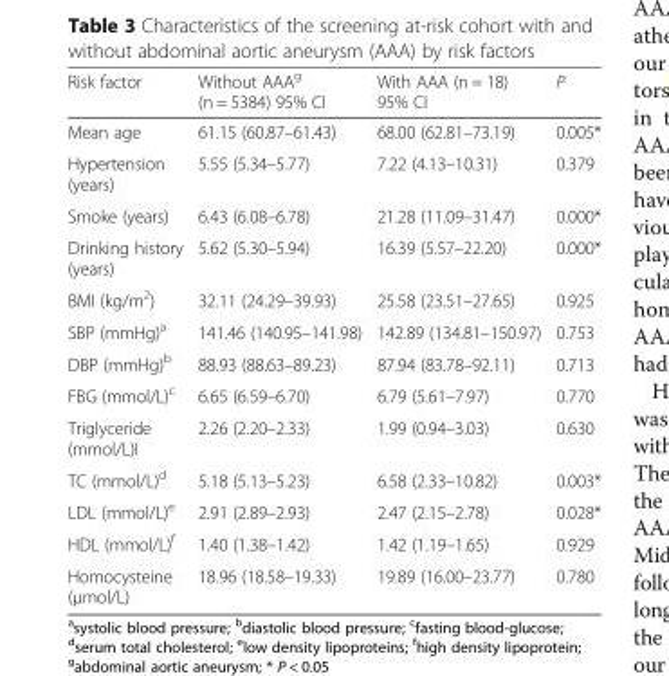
<table><thead><tr><td>Risk factor</td><td>Without AAA<sup>g</sup> (n = 5384) 95% CI</td><td>With AAA (n = 18) 95% CI</td><td>P</td></tr></thead><tbody><tr><td>Mean age</td><td>61.15 (60.87–61.43)</td><td>68.00 (62.81–73.19)</td><td>0.005*</td></tr><tr><td>Hypertension (years)</td><td>5.55 (5.34–5.77)</td><td>7.22 (4.13–10.31)</td><td>0.379</td></tr><tr><td>Smoke (years)</td><td>6.43 (6.08–6.78)</td><td>21.28 (11.09–31.47)</td><td>0.000*</td></tr><tr><td>Drinking history (years)</td><td>5.62 (5.30–5.94)</td><td>16.39 (5.57–22.20)</td><td>0.000*</td></tr><tr><td>BMI (kg/m<sup>2</sup>)</td><td>32.11 (24.29–39.93)</td><td>25.58 (23.51–27.65)</td><td>0.925</td></tr><tr><td>SBP (mmHg)<sup>a</sup></td><td>141.46 (140.95–141.98)</td><td>142.89 (134.81–150.97)</td><td>0.753</td></tr><tr><td>DBP (mmHg)<sup>b</sup></td><td>88.93 (88.63–89.23)</td><td>87.94 (83.78–92.11)</td><td>0.713</td></tr><tr><td>FBG (mmol/L)<sup>c</sup></td><td>6.65 (6.59–6.70)</td><td>6.79 (5.61–7.97)</td><td>0.770</td></tr><tr><td>Triglyceride (mmol/L)I</td><td>2.26 (2.20–2.33)</td><td>1.99 (0.94–3.03)</td><td>0.630</td></tr><tr><td>TC (mmol/L)<sup>d</sup></td><td>5.18 (5.13–5.23)</td><td>6.58 (2.33–10.82)</td><td>0.003*</td></tr><tr><td>LDL (mmol/L)<sup>e</sup></td><td>2.91 (2.89–2.93)</td><td>2.47 (2.15–2.78)</td><td>0.028*</td></tr><tr><td>HDL (mmol/L)<sup>f</sup></td><td>1.40 (1.38–1.42)</td><td>1.42 (1.19–1.65)</td><td>0.929</td></tr><tr><td>Homocysteine (μmol/L)</td><td>18.96 (18.58–19.33)</td><td>19.89 (16.00–23.77)</td><td>0.780</td></tr></tbody></table>